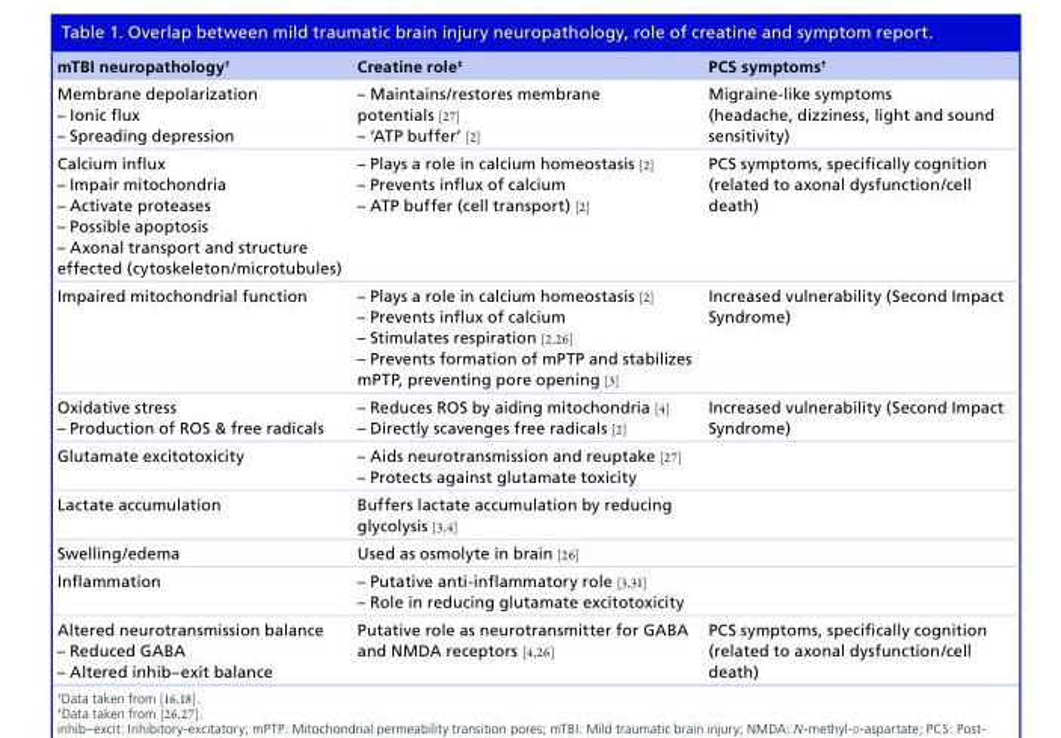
<table><thead><tr><td>mTBI neuropathology<sup>†</sup></td><td>Creatine role<sup>‡</sup></td><td>PCS symptoms<sup>†</sup></td></tr></thead><tbody><tr><td>Membrane depolarization – Ionic flux – Spreading depression</td><td>– Maintains/restores membrane potentials [27] – ‘ATP buffer’ [2]</td><td>Migraine-like symptoms (headache, dizziness, light and sound sensitivity)</td></tr><tr><td>Calcium influx – Impair mitochondria – Activate proteases – Possible apoptosis – Axonal transport and structure effected (cytoskeleton/microtubules)</td><td>– Plays a role in calcium homeostasis [2] – Prevents influx of calcium – ATP buffer (cell transport) [2]</td><td>PCS symptoms, specifically cognition (related to axonal dysfunction/cell death)</td></tr><tr><td>Impaired mitochondrial function</td><td>– Plays a role in calcium homeostasis [2] – Prevents influx of calcium – Stimulates respiration [2,26] – Prevents formation of mPTP and stabilizes mPTP, preventing pore opening [3]</td><td>Increased vulnerability (Second Impact Syndrome)</td></tr><tr><td>Oxidative stress – Production of ROS &amp; free radicals</td><td>– Reduces ROS by aiding mitochondria [4] – Directly scavenges free radicals [2]</td><td>Increased vulnerability (Second Impact Syndrome)</td></tr><tr><td>Glutamate excitotoxicity</td><td>– Aids neurotransmission and reuptake [27] – Protects against glutamate toxicity</td><td></td></tr><tr><td>Lactate accumulation</td><td>Buffers lactate accumulation by reducing glycolysis [3,4]</td><td></td></tr><tr><td>Swelling/edema</td><td>Used as osmolyte in brain [26]</td><td></td></tr><tr><td>Inflammation</td><td>– Putative anti-inflammatory role [3,31] – Role in reducing glutamate excitotoxicity</td><td></td></tr><tr><td>Altered neurotransmission balance – Reduced GABA – Altered inhib–exit balance</td><td>Putative role as neurotransmitter for GABA and NMDA receptors [4,26]</td><td>PCS symptoms, specifically cognition (related to axonal dysfunction/cell death)</td></tr></tbody></table>